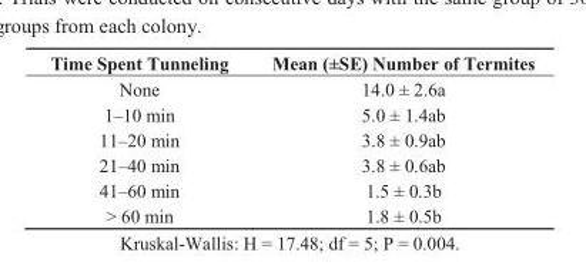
<table><thead><tr><td>Time Spent Tunneling</td><td>Mean (±SE) Number of Termites</td></tr></thead><tbody><tr><td>None</td><td>14.0 ± 2.6a</td></tr><tr><td>1–10 min</td><td>5.0 ± 1.4ab</td></tr><tr><td>11–20 min</td><td>3.8 ± 0.9ab</td></tr><tr><td>21–40 min</td><td>3.8 ± 0.6ab</td></tr><tr><td>41–60 min</td><td>1.5 ± 0.3b</td></tr><tr><td>&gt; 60 min</td><td>1.8 ± 0.5b</td></tr></tbody></table>